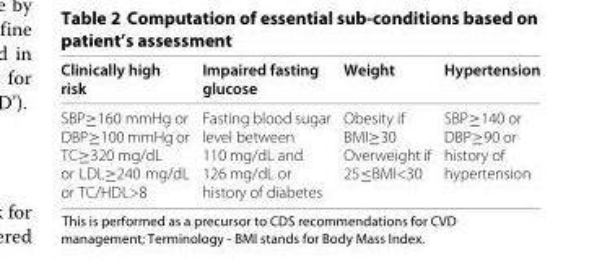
<table><thead><tr><td>Clinically high risk</td><td>Impaired fasting glucose</td><td>Weight</td><td>Hypertension</td></tr></thead><tbody><tr><td>SBP≥160 mmHg or DBP≥100 mmHg or TC≥320 mg/dL or LDL≥240 mg/dL or TC/HDL&gt;8</td><td>Fasting blood sugar level between 110 mg/dL and 126 mg/dL or history of diabetes</td><td>Obesity if BMI≥30 Overweight if 25≤BMI&lt;30</td><td>SBP≥140 or DBP≥90 or history of hypertension</td></tr></tbody></table>